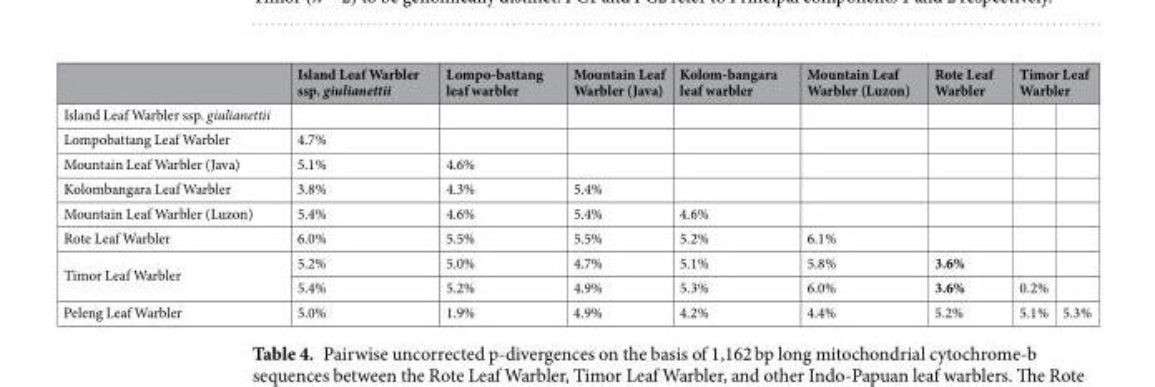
<table><thead><tr><td rowspan="2">Island Leaf Warbler ssp. giulianettii</td><td rowspan="2">Island Leaf Warbler ssp. giulianettii</td><td rowspan="2">Lompo-battang leaf warbler</td><td rowspan="2">Mountain Leaf Warbler (Java)</td><td rowspan="2">Kolom-bangara leaf warbler</td><td rowspan="2">Mountain Leaf Warbler (Luzon)</td><td rowspan="2">Rote Leaf Warbler</td><td colspan="2">Timor Leaf Warbler</td></tr><tr><td></td><td></td></tr></thead><tbody><tr><td>Lompobattang Leaf Warbler</td><td>4.7%</td><td></td><td></td><td></td><td></td><td></td><td></td><td></td></tr><tr><td>Mountain Leaf Warbler (Java)</td><td>5.1%</td><td>4.6%</td><td></td><td></td><td></td><td></td><td></td><td></td></tr><tr><td>Kolombangara Leaf Warbler</td><td>3.8%</td><td>4.3%</td><td>5.4%</td><td></td><td></td><td></td><td></td><td></td></tr><tr><td>Mountain Leaf Warbler (Luzon)</td><td>5.4%</td><td>4.6%</td><td>5.4%</td><td>4.6%</td><td></td><td></td><td></td><td></td></tr><tr><td>Rote Leaf Warbler</td><td>6.0%</td><td>5.5%</td><td>5.5%</td><td>5.2%</td><td>6.1%</td><td></td><td></td><td></td></tr><tr><td rowspan="2">Timor Leaf Warbler</td><td>5.2%</td><td>5.0%</td><td>4.7%</td><td>5.1%</td><td>5.8%</td><td>3.6%</td><td></td><td></td></tr><tr><td>5.4%</td><td>5.2%</td><td>4.9%</td><td>5.3%</td><td>6.0%</td><td>3.6%</td><td>0.2%</td><td></td></tr><tr><td>Peleng Leaf Warbler</td><td>5.0%</td><td>1.9%</td><td>4.9%</td><td>4.2%</td><td>4.4%</td><td>5.2%</td><td>5.1%</td><td>5.3%</td></tr></tbody></table>